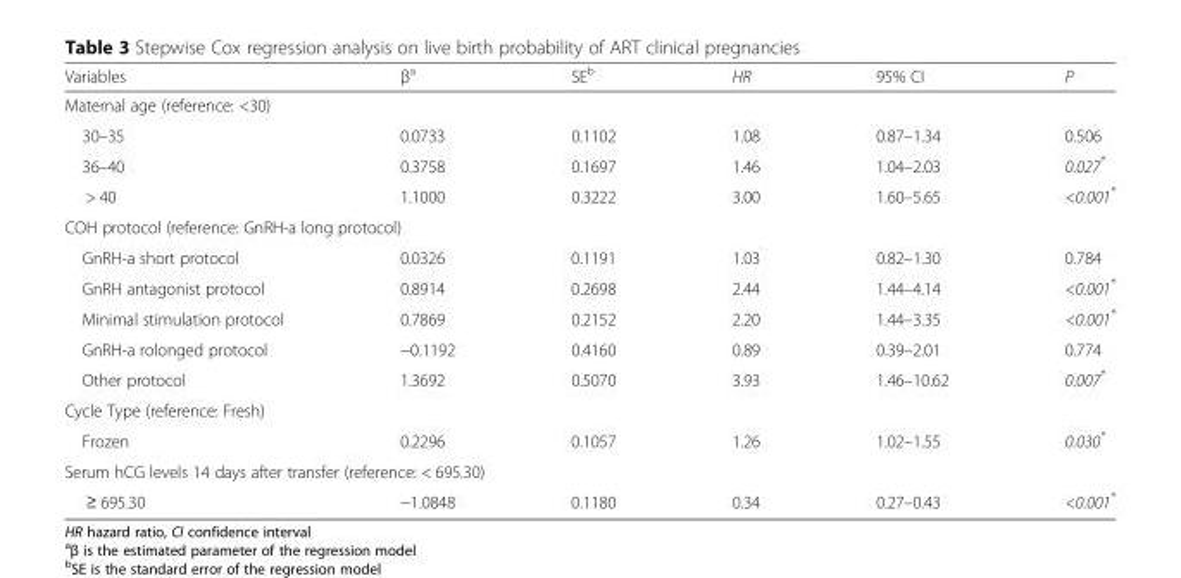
<table><thead><tr><td>Variables</td><td>β<sup>a</sup></td><td>SE<sup>b</sup></td><td>HR</td><td>95% CI</td><td>P</td></tr></thead><tbody><tr><td colspan="6">Maternal age (reference: &lt;30)</td></tr><tr><td>30–35</td><td>0.0733</td><td>0.1102</td><td>1.08</td><td>0.87–1.34</td><td>0.506</td></tr><tr><td>36–40</td><td>0.3758</td><td>0.1697</td><td>1.46</td><td>1.04–2.03</td><td>0.027*</td></tr><tr><td>&gt; 40</td><td>1.1000</td><td>0.3222</td><td>3.00</td><td>1.60–5.65</td><td>&lt;0.001*</td></tr><tr><td colspan="6">COH protocol (reference: GnRH-a long protocol)</td></tr><tr><td>GnRH-a short protocol</td><td>0.0326</td><td>0.1191</td><td>1.03</td><td>0.82–1.30</td><td>0.784</td></tr><tr><td>GnRH antagonist protocol</td><td>0.8914</td><td>0.2698</td><td>2.44</td><td>1.44–4.14</td><td>&lt;0.001*</td></tr><tr><td>Minimal stimulation protocol</td><td>0.7869</td><td>0.2152</td><td>2.20</td><td>1.44–3.35</td><td>&lt;0.001*</td></tr><tr><td>GnRH-a rolonged protocol</td><td>−0.1192</td><td>0.4160</td><td>0.89</td><td>0.39–2.01</td><td>0.774</td></tr><tr><td>Other protocol</td><td>1.3692</td><td>0.5070</td><td>3.93</td><td>1.46–10.62</td><td>0.007*</td></tr><tr><td colspan="6">Cycle Type (reference: Fresh)</td></tr><tr><td>Frozen</td><td>0.2296</td><td>0.1057</td><td>1.26</td><td>1.02–1.55</td><td>0.030*</td></tr><tr><td colspan="6">Serum hCG levels 14 days after transfer (reference: &lt; 695.30)</td></tr><tr><td>≥ 695.30</td><td>−1.0848</td><td>0.1180</td><td>0.34</td><td>0.27–0.43</td><td>&lt;0.001*</td></tr></tbody></table>